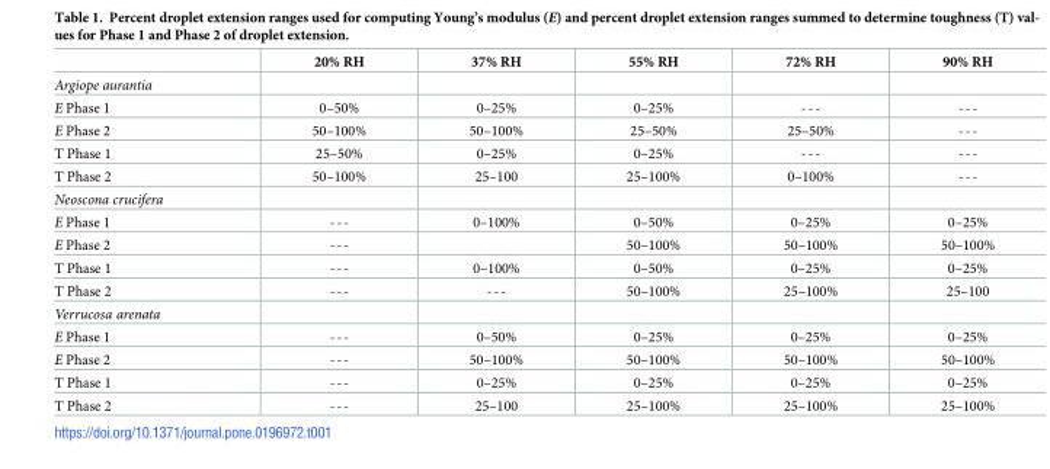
<table><thead><tr><td></td><td>20% RH</td><td>37% RH</td><td>55% RH</td><td>72% RH</td><td>90% RH</td></tr></thead><tbody><tr><td colspan="6">Argiope aurantia</td></tr><tr><td>E Phase 1</td><td>0–50%</td><td>0–25%</td><td>0–25%</td><td>---</td><td>---</td></tr><tr><td>E Phase 2</td><td>50–100%</td><td>50–100%</td><td>25–50%</td><td>25–50%</td><td>---</td></tr><tr><td>T Phase 1</td><td>25–50%</td><td>0–25%</td><td>0–25%</td><td>---</td><td>---</td></tr><tr><td>T Phase 2</td><td>50–100%</td><td>25–100</td><td>25–100%</td><td>0–100%</td><td>---</td></tr><tr><td colspan="6">Neoscona crucifera</td></tr><tr><td>E Phase 1</td><td>---</td><td>0–100%</td><td>0–50%</td><td>0–25%</td><td>0–25%</td></tr><tr><td>E Phase 2</td><td>---</td><td></td><td>50–100%</td><td>50–100%</td><td>50–100%</td></tr><tr><td>T Phase 1</td><td>---</td><td>0–100%</td><td>0–50%</td><td>0–25%</td><td>0–25%</td></tr><tr><td>T Phase 2</td><td>---</td><td>---</td><td>50–100%</td><td>25–100%</td><td>25–100</td></tr><tr><td colspan="6">Verrucosa arenata</td></tr><tr><td>E Phase 1</td><td>---</td><td>0–50%</td><td>0–25%</td><td>0–25%</td><td>0–25%</td></tr><tr><td>E Phase 2</td><td>---</td><td>50–100%</td><td>50–100%</td><td>50–100%</td><td>50–100%</td></tr><tr><td>T Phase 1</td><td>---</td><td>0–25%</td><td>0–25%</td><td>0–25%</td><td>0–25%</td></tr><tr><td>T Phase 2</td><td>---</td><td>25–100</td><td>25–100%</td><td>25–100%</td><td>25–100%</td></tr></tbody></table>